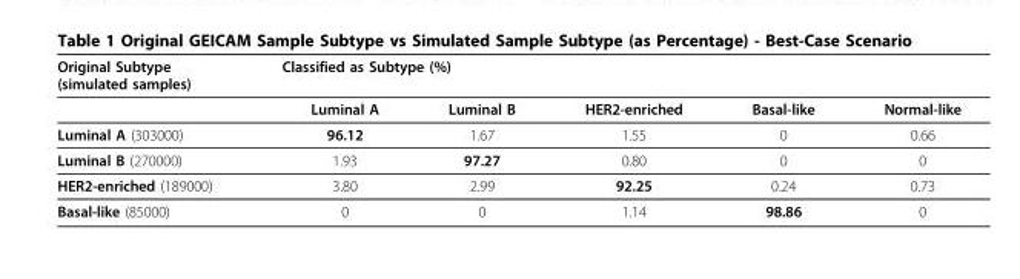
<table><thead><tr><td rowspan="2">Original Subtype (simulated samples)</td><td colspan="5">Classified as Subtype (%)</td></tr><tr><td>Luminal A</td><td>Luminal B</td><td>HER2-enriched</td><td>Basal-like</td><td>Normal-like</td></tr></thead><tbody><tr><td>Luminal A (303000)</td><td>96.12</td><td>1.67</td><td>1.55</td><td>0</td><td>0.66</td></tr><tr><td>Luminal B (270000)</td><td>1.93</td><td>97.27</td><td>0.80</td><td>0</td><td>0</td></tr><tr><td>HER2-enriched (189000)</td><td>3.80</td><td>2.99</td><td>92.25</td><td>0.24</td><td>0.73</td></tr><tr><td>Basal-like (85000)</td><td>0</td><td>0</td><td>1.14</td><td>98.86</td><td>0</td></tr></tbody></table>